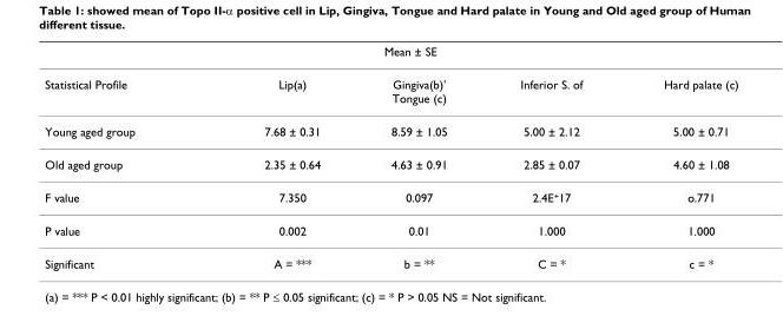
<table><thead><tr><td colspan="5">Mean ± SE</td></tr><tr><td>Statistical Profile</td><td>Lip(a)</td><td>Gingiva(b)&#x27; Tongue (c)</td><td>Inferior S. of</td><td>Hard palate (c)</td></tr></thead><tbody><tr><td>Young aged group</td><td>7.68 ± 0.31</td><td>8.59 ± 1.05</td><td>5.00 ± 2.12</td><td>5.00 ± 0.71</td></tr><tr><td>Old aged group</td><td>2.35 ± 0.64</td><td>4.63 ± 0.91</td><td>2.85 ± 0.07</td><td>4.60 ± 1.08</td></tr><tr><td>F value</td><td>7.350</td><td>0.097</td><td>2.4E<sup>+</sup>17</td><td>o.771</td></tr><tr><td>P value</td><td>0.002</td><td>0.01</td><td>1.000</td><td>1.000</td></tr><tr><td>Significant</td><td>A = ***</td><td>b = **</td><td>C = *</td><td>c = *</td></tr></tbody></table>